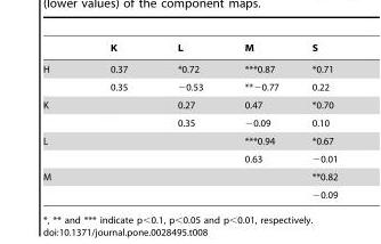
<table><thead><tr><td></td><td>K</td><td>L</td><td>M</td><td>S</td></tr></thead><tbody><tr><td rowspan="2">H</td><td>0.37</td><td>*0.72</td><td>***0.87</td><td>*0.71</td></tr><tr><td>0.35</td><td>−0.53</td><td>**−0.77</td><td>0.22</td></tr><tr><td rowspan="2">K</td><td></td><td>0.27</td><td>0.47</td><td>*0.70</td></tr><tr><td></td><td>0.35</td><td>−0.09</td><td>0.10</td></tr><tr><td rowspan="2">L</td><td></td><td></td><td>***0.94</td><td>*0.67</td></tr><tr><td></td><td></td><td>0.63</td><td>−0.01</td></tr><tr><td rowspan="2">M</td><td></td><td></td><td></td><td>**0.82</td></tr><tr><td></td><td></td><td></td><td>−0.09</td></tr></tbody></table>